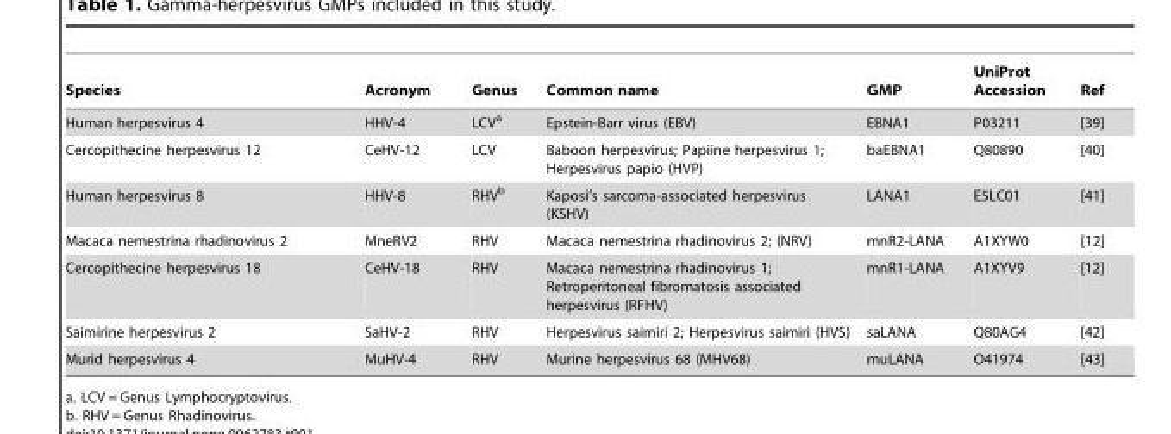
<table><thead><tr><td>Species</td><td>Acronym</td><td>Genus</td><td>Common name</td><td>GMP</td><td>UniProt Accession</td><td>Ref</td></tr></thead><tbody><tr><td>Human herpesvirus 4</td><td>HHV-4</td><td>LCV<sup>a</sup></td><td>Epstein-Barr virus (EBV)</td><td>EBNA1</td><td>P03211</td><td>[39]</td></tr><tr><td>Cercopithecine herpesvirus 12</td><td>CeHV-12</td><td>LCV</td><td>Baboon herpesvirus; Papiine herpesvirus 1; Herpesvirus papio (HVP)</td><td>baEBNA1</td><td>Q80890</td><td>[40]</td></tr><tr><td>Human herpesvirus 8</td><td>HHV-8</td><td>RHV<sup>b</sup></td><td>Kaposi’s sarcoma-associated herpesvirus (KSHV)</td><td>LANA1</td><td>E5LC01</td><td>[41]</td></tr><tr><td>Macaca nemestrina rhadinovirus 2</td><td>MneRV2</td><td>RHV</td><td>Macaca nemestrina rhadinovirus 2; (NRV)</td><td>mnR2-LANA</td><td>A1XYW0</td><td>[12]</td></tr><tr><td>Cercopithecine herpesvirus 18</td><td>CeHV-18</td><td>RHV</td><td>Macaca nemestrina rhadinovirus 1; Retroperitoneal fibromatosis associated herpesvirus (RFHV)</td><td>mnR1-LANA</td><td>A1XYV9</td><td>[12]</td></tr><tr><td>Saimirine herpesvirus 2</td><td>SaHV-2</td><td>RHV</td><td>Herpesvirus saimiri 2; Herpesvirus saimiri (HVS)</td><td>saLANA</td><td>Q80AG4</td><td>[42]</td></tr><tr><td>Murid herpesvirus 4</td><td>MuHV-4</td><td>RHV</td><td>Murine herpesvirus 68 (MHV68)</td><td>muLANA</td><td>O41974</td><td>[43]</td></tr></tbody></table>